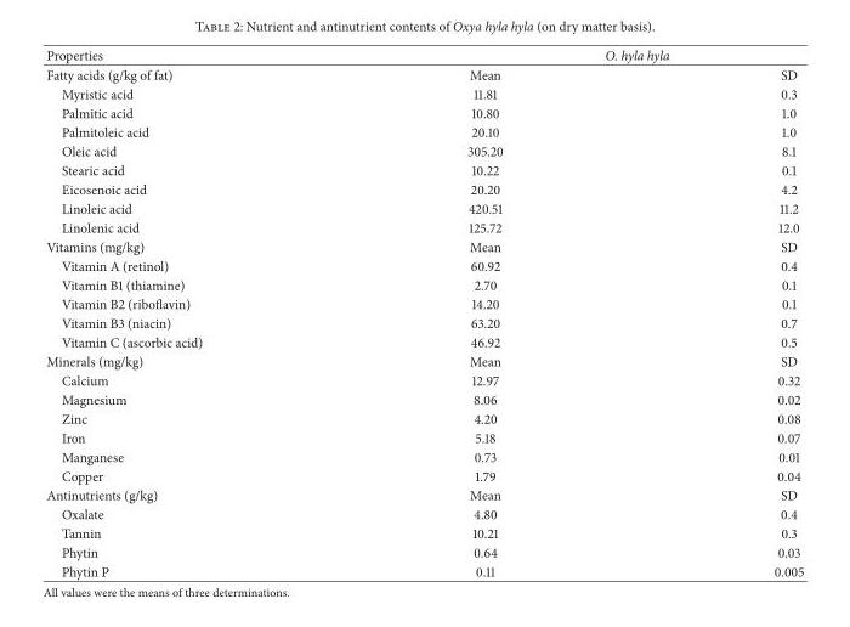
<table><thead><tr><td rowspan="2">Properties Fatty acids (g/kg of fat)</td><td colspan="2">O. hyla hyla</td></tr><tr><td>Mean</td><td>SD</td></tr></thead><tbody><tr><td>Myristic acid</td><td>11.81</td><td>0.3</td></tr><tr><td>Palmitic acid</td><td>10.80</td><td>1.0</td></tr><tr><td>Palmitoleic acid</td><td>20.10</td><td>1.0</td></tr><tr><td>Oleic acid</td><td>305.20</td><td>8.1</td></tr><tr><td>Stearic acid</td><td>10.22</td><td>0.1</td></tr><tr><td>Eicosenoic acid</td><td>20.20</td><td>4.2</td></tr><tr><td>Linoleic acid</td><td>420.51</td><td>11.2</td></tr><tr><td>Linolenic acid</td><td>125.72</td><td>12.0</td></tr><tr><td>Vitamins (mg/kg)</td><td>Mean</td><td>SD</td></tr><tr><td>Vitamin A (retinol)</td><td>60.92</td><td>0.4</td></tr><tr><td>Vitamin B1 (thiamine)</td><td>2.70</td><td>0.1</td></tr><tr><td>Vitamin B2 (riboflavin)</td><td>14.20</td><td>0.1</td></tr><tr><td>Vitamin B3 (niacin)</td><td>63.20</td><td>0.7</td></tr><tr><td>Vitamin C (ascorbic acid)</td><td>46.92</td><td>0.5</td></tr><tr><td>Minerals (mg/kg)</td><td>Mean</td><td>SD</td></tr><tr><td>Calcium</td><td>12.97</td><td>0.32</td></tr><tr><td>Magnesium</td><td>8.06</td><td>0.02</td></tr><tr><td>Zinc</td><td>4.20</td><td>0.08</td></tr><tr><td>Iron</td><td>5.18</td><td>0.07</td></tr><tr><td>Manganese</td><td>0.73</td><td>0.01</td></tr><tr><td>Copper</td><td>1.79</td><td>0.04</td></tr><tr><td>Antinutrients (g/kg)</td><td>Mean</td><td>SD</td></tr><tr><td>Oxalate</td><td>4.80</td><td>0.4</td></tr><tr><td>Tannin</td><td>10.21</td><td>0.3</td></tr><tr><td>Phytin</td><td>0.64</td><td>0.03</td></tr><tr><td>Phytin P</td><td>0.11</td><td>0.005</td></tr></tbody></table>